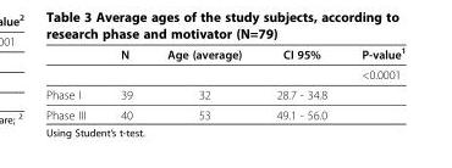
<table><thead><tr><td></td><td>N</td><td>Age (average)</td><td>CI 95%</td><td>P-value<sup>1</sup></td></tr></thead><tbody><tr><td></td><td></td><td></td><td></td><td>&lt;0.0001</td></tr><tr><td>Phase I</td><td>39</td><td>32</td><td>28.7 - 34.8</td><td></td></tr><tr><td>Phase III</td><td>40</td><td>53</td><td>49.1 - 56.0</td><td></td></tr></tbody></table>